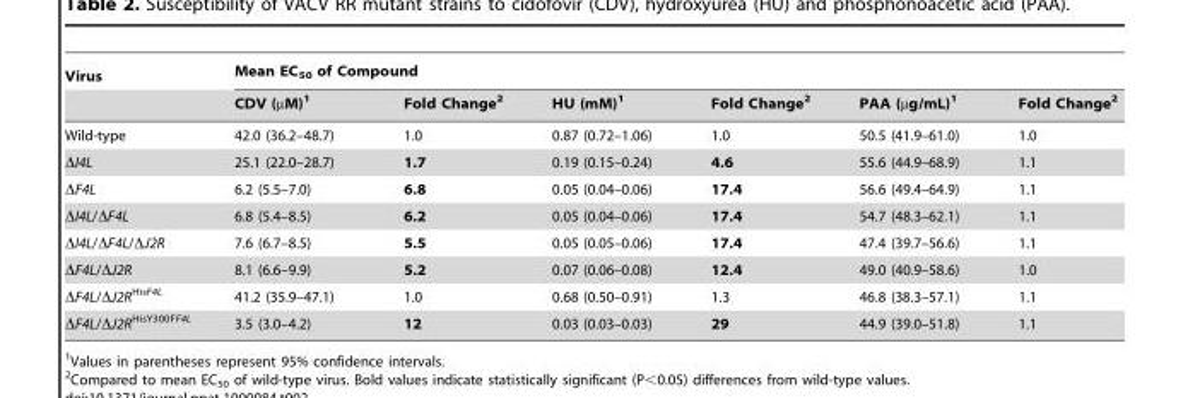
<table><thead><tr><td rowspan="2">Virus</td><td colspan="6">Mean EC<sub>50</sub> of Compound</td></tr><tr><td>CDV (µM)<sup>1</sup></td><td>Fold Change<sup>2</sup></td><td>HU (mM)<sup>1</sup></td><td>Fold Change<sup>2</sup></td><td>PAA (µg/mL)<sup>1</sup></td><td>Fold Change<sup>2</sup></td></tr></thead><tbody><tr><td>Wild-type</td><td>42.0 (36.2–48.7)</td><td>1.0</td><td>0.87 (0.72–1.06)</td><td>1.0</td><td>50.5 (41.9–61.0)</td><td>1.0</td></tr><tr><td>ΔI4L</td><td>25.1 (22.0–28.7)</td><td>1.7</td><td>0.19 (0.15–0.24)</td><td>4.6</td><td>55.6 (44.9–68.9)</td><td>1.1</td></tr><tr><td>ΔF4L</td><td>6.2 (5.5–7.0)</td><td>6.8</td><td>0.05 (0.04–0.06)</td><td>17.4</td><td>56.6 (49.4–64.9)</td><td>1.1</td></tr><tr><td>ΔI4L/ΔF4L</td><td>6.8 (5.4–8.5)</td><td>6.2</td><td>0.05 (0.04–0.06)</td><td>17.4</td><td>54.7 (48.3–62.1)</td><td>1.1</td></tr><tr><td>ΔI4L/ΔF4L/ΔJ2R</td><td>7.6 (6.7–8.5)</td><td>5.5</td><td>0.05 (0.05–0.06)</td><td>17.4</td><td>47.4 (39.7–56.6)</td><td>1.1</td></tr><tr><td>ΔF4L/ΔJ2R</td><td>8.1 (6.6–9.9)</td><td>5.2</td><td>0.07 (0.06–0.08)</td><td>12.4</td><td>49.0 (40.9–58.6)</td><td>1.0</td></tr><tr><td>ΔF4L/ΔJ2R<sup>HisF4L</sup></td><td>41.2 (35.9–47.1)</td><td>1.0</td><td>0.68 (0.50–0.91)</td><td>1.3</td><td>46.8 (38.3–57.1)</td><td>1.1</td></tr><tr><td>ΔF4L/ΔJ2R<sup>HisY300FF4L</sup></td><td>3.5 (3.0–4.2)</td><td>12</td><td>0.03 (0.03–0.03)</td><td>29</td><td>44.9 (39.0–51.8)</td><td>1.1</td></tr></tbody></table>